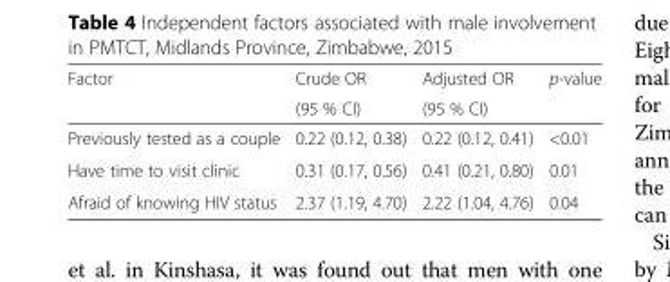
<table><thead><tr><td rowspan="2">Factor</td><td rowspan="2">Crude OR (95 % CI)</td><td rowspan="2">Adjusted OR (95 % CI)</td><td rowspan="2">p-value</td></tr><tr></tr></thead><tbody><tr><td>Previously tested as a couple</td><td>0.22 (0.12, 0.38)</td><td>0.22 (0.12, 0.41)</td><td>&lt;0.01</td></tr><tr><td>Have time to visit clinic</td><td>0.31 (0.17, 0.56)</td><td>0.41 (0.21, 0.80)</td><td>0.01</td></tr><tr><td>Afraid of knowing HIV status</td><td>2.37 (1.19, 4.70)</td><td>2.22 (1.04, 4.76)</td><td>0.04</td></tr></tbody></table>